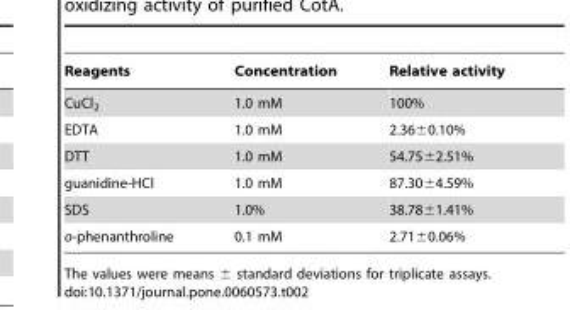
<table><thead><tr><td>Reagents</td><td>Concentration</td><td>Relative activity</td></tr></thead><tbody><tr><td>CuCl<sub>2</sub></td><td>1.0 mM</td><td>100%</td></tr><tr><td>EDTA</td><td>1.0 mM</td><td>2.36±0.10%</td></tr><tr><td>DTT</td><td>1.0 mM</td><td>54.75±2.51%</td></tr><tr><td>guanidine-HCl</td><td>1.0 mM</td><td>87.30±4.59%</td></tr><tr><td>SDS</td><td>1.0%</td><td>38.78±1.41%</td></tr><tr><td>o-phenanthroline</td><td>0.1 mM</td><td>2.71±0.06%</td></tr></tbody></table>